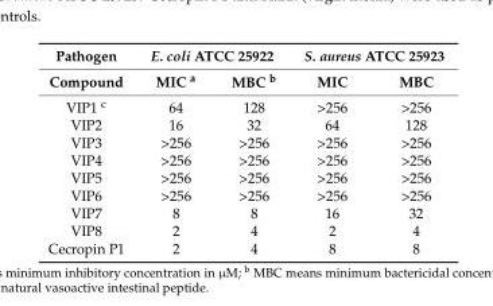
<table><thead><tr><td rowspan="2">Pathogen Compound</td><td colspan="2">E. coli ATCC 25922</td><td colspan="2">S. aureus ATCC 25923</td></tr><tr><td>MIC <sup>a</sup></td><td>MBC <sup>b</sup></td><td>MIC</td><td>MBC</td></tr></thead><tbody><tr><td>VIP1 <sup>c</sup></td><td>64</td><td>128</td><td>&gt;256</td><td>&gt;256</td></tr><tr><td>VIP2</td><td>16</td><td>32</td><td>64</td><td>128</td></tr><tr><td>VIP3</td><td>&gt;256</td><td>&gt;256</td><td>&gt;256</td><td>&gt;256</td></tr><tr><td>VIP4</td><td>&gt;256</td><td>&gt;256</td><td>&gt;256</td><td>&gt;256</td></tr><tr><td>VIP5</td><td>&gt;256</td><td>&gt;256</td><td>&gt;256</td><td>&gt;256</td></tr><tr><td>VIP6</td><td>&gt;256</td><td>&gt;256</td><td>&gt;256</td><td>&gt;256</td></tr><tr><td>VIP7</td><td>8</td><td>8</td><td>16</td><td>32</td></tr><tr><td>VIP8</td><td>2</td><td>4</td><td>2</td><td>4</td></tr><tr><td>Cecropin P1</td><td>2</td><td>4</td><td>8</td><td>8</td></tr></tbody></table>